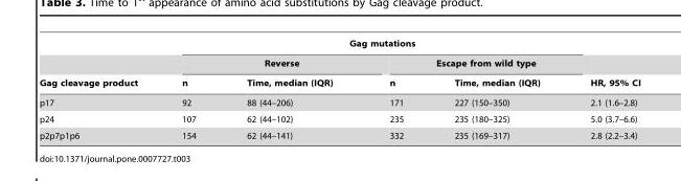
<table><thead><tr><td rowspan="3">Gag cleavage product</td><td colspan="4">Gag mutations</td><td rowspan="3">HR, 95% CI</td></tr><tr><td colspan="2">Reverse</td><td colspan="2">Escape from wild type</td></tr><tr><td>n</td><td>Time, median (IQR)</td><td>n</td><td>Time, median (IQR)</td></tr></thead><tbody><tr><td>p17</td><td>92</td><td>88 (44–206)</td><td>171</td><td>227 (150–350)</td><td>2.1 (1.6–2.8)</td></tr><tr><td>p24</td><td>107</td><td>62 (44–102)</td><td>235</td><td>235 (180–325)</td><td>5.0 (3.7–6.6)</td></tr><tr><td>p2p7p1p6</td><td>154</td><td>62 (44–141)</td><td>332</td><td>235 (169–317)</td><td>2.8 (2.2–3.4)</td></tr></tbody></table>